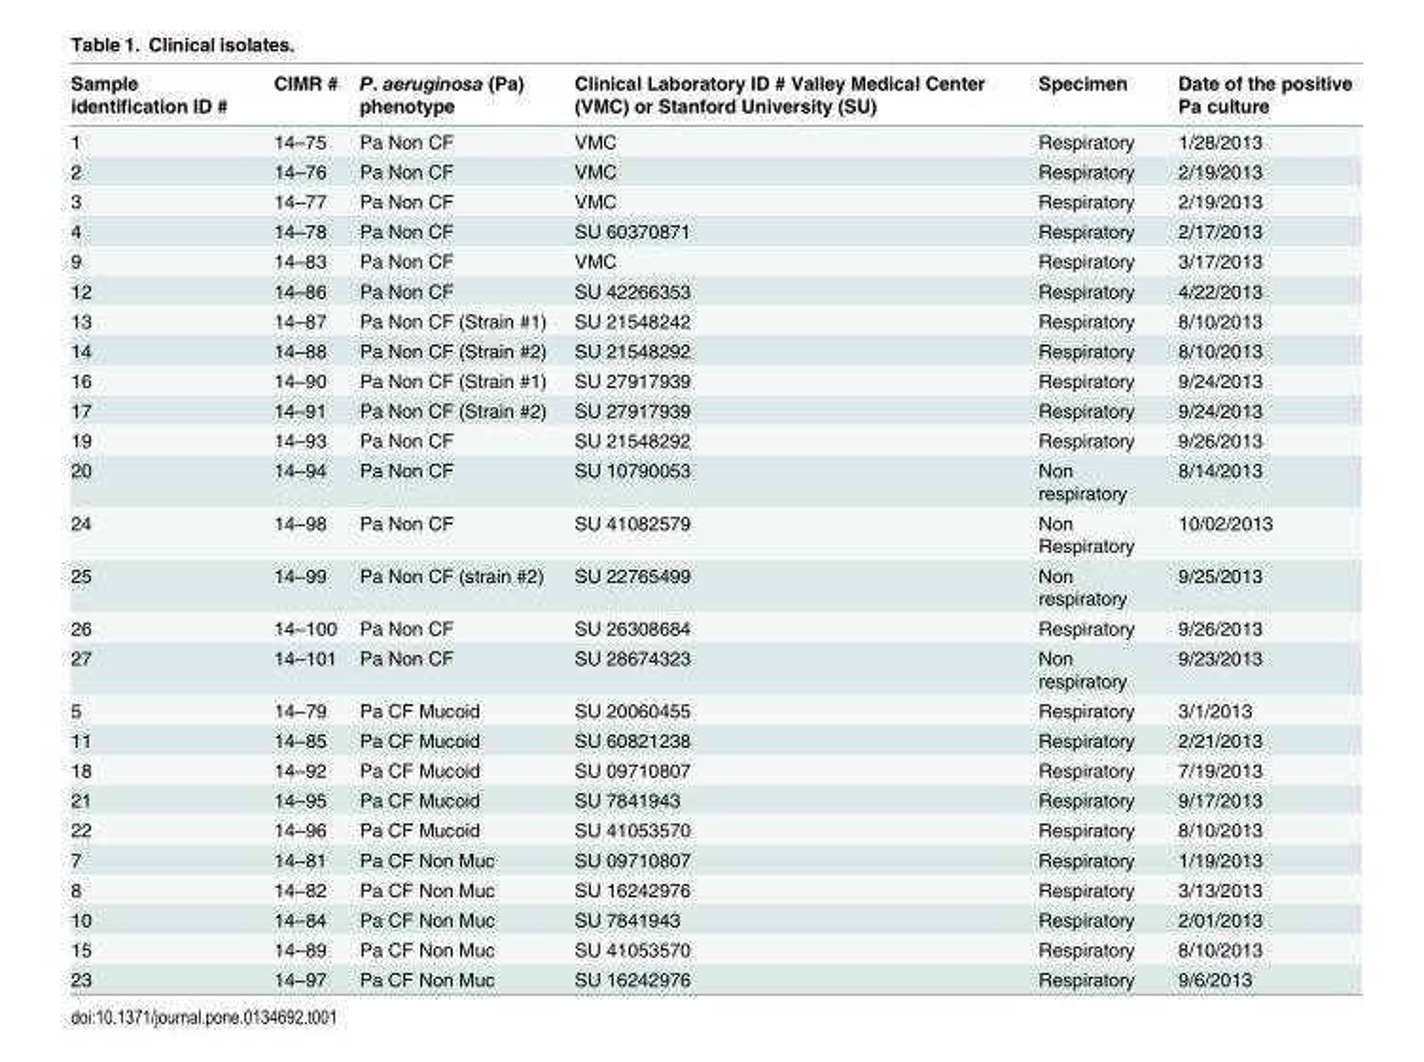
<table><thead><tr><td>Sample identification ID #</td><td>CIMR #</td><td>P. aeruginosa (Pa) phenotype</td><td>Clinical Laboratory ID # Valley Medical Center (VMC) or Stanford University (SU)</td><td>Specimen</td><td>Date of the positive Pa culture</td></tr></thead><tbody><tr><td>1</td><td>14–75</td><td>Pa Non CF</td><td>VMC</td><td>Respiratory</td><td>1/28/2013</td></tr><tr><td>2</td><td>14–76</td><td>Pa Non CF</td><td>VMC</td><td>Respiratory</td><td>2/19/2013</td></tr><tr><td>3</td><td>14–77</td><td>Pa Non CF</td><td>VMC</td><td>Respiratory</td><td>2/19/2013</td></tr><tr><td>4</td><td>14–78</td><td>Pa Non CF</td><td>SU 60370871</td><td>Respiratory</td><td>2/17/2013</td></tr><tr><td>9</td><td>14–83</td><td>Pa Non CF</td><td>VMC</td><td>Respiratory</td><td>3/17/2013</td></tr><tr><td>12</td><td>14–86</td><td>Pa Non CF</td><td>SU 42266353</td><td>Respiratory</td><td>4/22/2013</td></tr><tr><td>13</td><td>14–87</td><td>Pa Non CF (Strain #1)</td><td>SU 21548242</td><td>Respiratory</td><td>8/10/2013</td></tr><tr><td>14</td><td>14–88</td><td>Pa Non CF (Strain #2)</td><td>SU 21548292</td><td>Respiratory</td><td>8/10/2013</td></tr><tr><td>16</td><td>14–90</td><td>Pa Non CF (Strain #1)</td><td>SU 27917939</td><td>Respiratory</td><td>9/24/2013</td></tr><tr><td>17</td><td>14–91</td><td>Pa Non CF (Strain #2)</td><td>SU 27917939</td><td>Respiratory</td><td>9/24/2013</td></tr><tr><td>19</td><td>14–93</td><td>Pa Non CF</td><td>SU 21548292</td><td>Respiratory</td><td>9/26/2013</td></tr><tr><td>20</td><td>14–94</td><td>Pa Non CF</td><td>SU 10790053</td><td>Non respiratory</td><td>8/14/2013</td></tr><tr><td>24</td><td>14–98</td><td>Pa Non CF</td><td>SU 41082579</td><td>Non Respiratory</td><td>10/02/2013</td></tr><tr><td>25</td><td>14–99</td><td>Pa Non CF (strain #2)</td><td>SU 22765499</td><td>Non respiratory</td><td>9/25/2013</td></tr><tr><td>26</td><td>14–100</td><td>Pa Non CF</td><td>SU 26308684</td><td>Respiratory</td><td>9/26/2013</td></tr><tr><td>27</td><td>14–101</td><td>Pa Non CF</td><td>SU 28674323</td><td>Non respiratory</td><td>9/23/2013</td></tr><tr><td>5</td><td>14–79</td><td>Pa CF Mucoid</td><td>SU 20060455</td><td>Respiratory</td><td>3/1/2013</td></tr><tr><td>11</td><td>14–85</td><td>Pa CF Mucoid</td><td>SU 60821238</td><td>Respiratory</td><td>2/21/2013</td></tr><tr><td>18</td><td>14–92</td><td>Pa CF Mucoid</td><td>SU 09710807</td><td>Respiratory</td><td>7/19/2013</td></tr><tr><td>21</td><td>14–95</td><td>Pa CF Mucoid</td><td>SU 7841943</td><td>Respiratory</td><td>9/17/2013</td></tr><tr><td>22</td><td>14–96</td><td>Pa CF Mucoid</td><td>SU 41053570</td><td>Respiratory</td><td>8/10/2013</td></tr><tr><td>7</td><td>14–81</td><td>Pa CF Non Muc</td><td>SU 09710807</td><td>Respiratory</td><td>1/19/2013</td></tr><tr><td>8</td><td>14–82</td><td>Pa CF Non Muc</td><td>SU 16242976</td><td>Respiratory</td><td>3/13/2013</td></tr><tr><td>10</td><td>14–84</td><td>Pa CF Non Muc</td><td>SU 7841943</td><td>Respiratory</td><td>2/01/2013</td></tr><tr><td>15</td><td>14–89</td><td>Pa CF Non Muc</td><td>SU 41053570</td><td>Respiratory</td><td>8/10/2013</td></tr><tr><td>23</td><td>14–97</td><td>Pa CF Non Muc</td><td>SU 16242976</td><td>Respiratory</td><td>9/6/2013</td></tr></tbody></table>